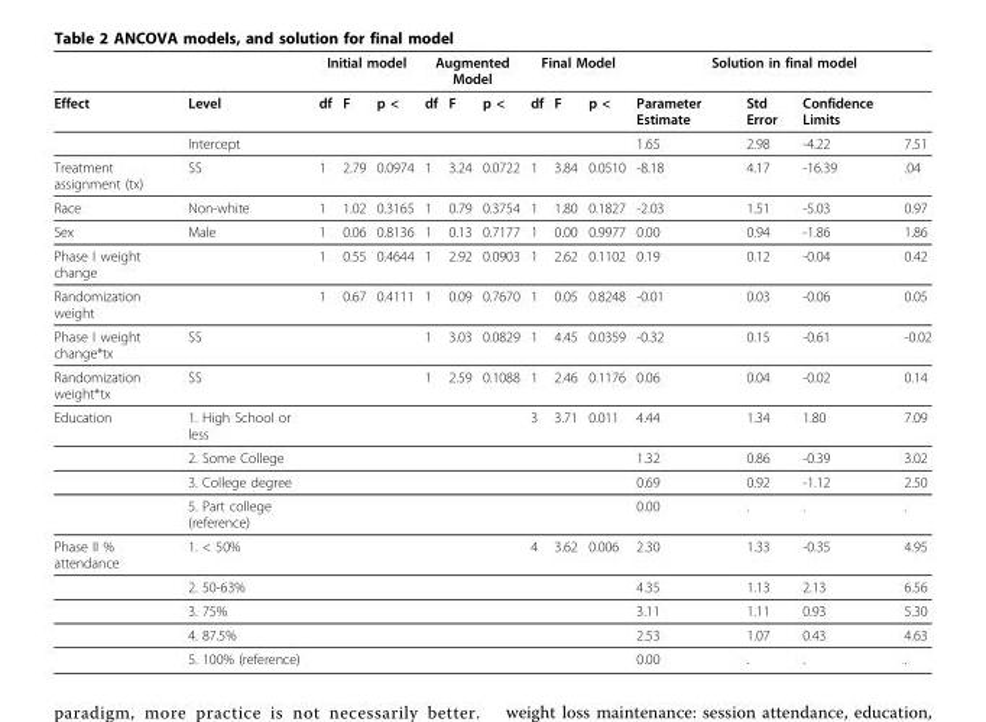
<table><thead><tr><td rowspan="2">Effect</td><td rowspan="2">Level</td><td colspan="3">Initial model</td><td colspan="3">Augmented Model</td><td colspan="3">Final Model</td><td colspan="4">Solution in final model</td></tr><tr><td>df</td><td>F</td><td>p &lt;</td><td>df</td><td>F</td><td>p &lt;</td><td>df</td><td>F</td><td>p &lt;</td><td>Parameter Estimate</td><td>Std Error</td><td>Confidence Limits</td><td></td></tr></thead><tbody><tr><td></td><td>Intercept</td><td></td><td></td><td></td><td></td><td></td><td></td><td></td><td></td><td></td><td>1.65</td><td>2.98</td><td>-4.22</td><td>7.51</td></tr><tr><td>Treatment assignment (tx)</td><td>SS</td><td>1</td><td>2.79</td><td>0.0974</td><td>1</td><td>3.24</td><td>0.0722</td><td>1</td><td>3.84</td><td>0.0510</td><td>-8.18</td><td>4.17</td><td>-16.39</td><td>.04</td></tr><tr><td>Race</td><td>Non-white</td><td>1</td><td>1.02</td><td>0.3165</td><td>1</td><td>0.79</td><td>0.3754</td><td>1</td><td>1.80</td><td>0.1827</td><td>-2.03</td><td>1.51</td><td>-5.03</td><td>0.97</td></tr><tr><td>Sex</td><td>Male</td><td>1</td><td>0.06</td><td>0.8136</td><td>1</td><td>0.13</td><td>0.7177</td><td>1</td><td>0.00</td><td>0.9977</td><td>0.00</td><td>0.94</td><td>-1.86</td><td>1.86</td></tr><tr><td>Phase I weight change</td><td></td><td>1</td><td>0.55</td><td>0.4644</td><td>1</td><td>2.92</td><td>0.0903</td><td>1</td><td>2.62</td><td>0.1102</td><td>0.19</td><td>0.12</td><td>-0.04</td><td>0.42</td></tr><tr><td>Randomization weight</td><td></td><td>1</td><td>0.67</td><td>0.4111</td><td>1</td><td>0.09</td><td>0.7670</td><td>1</td><td>0.05</td><td>0.8248</td><td>-0.01</td><td>0.03</td><td>-0.06</td><td>0.05</td></tr><tr><td>Phase I weight change*tx</td><td>SS</td><td></td><td></td><td></td><td>1</td><td>3.03</td><td>0.0829</td><td>1</td><td>4.45</td><td>0.0359</td><td>-0.32</td><td>0.15</td><td>-0.61</td><td>-0.02</td></tr><tr><td>Randomization weight*tx</td><td>SS</td><td></td><td></td><td></td><td>1</td><td>2.59</td><td>0.1088</td><td>1</td><td>2.46</td><td>0.1176</td><td>0.06</td><td>0.04</td><td>-0.02</td><td>0.14</td></tr><tr><td rowspan="4">Education</td><td>1. High School or less</td><td></td><td></td><td></td><td></td><td></td><td></td><td>3</td><td>3.71</td><td>0.011</td><td>4.44</td><td>1.34</td><td>1.80</td><td>7.09</td></tr><tr><td>2. Some College</td><td></td><td></td><td></td><td></td><td></td><td></td><td></td><td></td><td></td><td>1.32</td><td>0.86</td><td>-0.39</td><td>3.02</td></tr><tr><td>3. College degree</td><td></td><td></td><td></td><td></td><td></td><td></td><td></td><td></td><td></td><td>0.69</td><td>0.92</td><td>-1.12</td><td>2.50</td></tr><tr><td>5. Part college (reference)</td><td></td><td></td><td></td><td></td><td></td><td></td><td></td><td></td><td></td><td>0.00</td><td>.</td><td>.</td><td>.</td></tr><tr><td rowspan="5">Phase II % attendance</td><td>1. &lt; 50%</td><td></td><td></td><td></td><td></td><td></td><td></td><td>4</td><td>3.62</td><td>0.006</td><td>2.30</td><td>1.33</td><td>-0.35</td><td>4.95</td></tr><tr><td>2. 50-63%</td><td></td><td></td><td></td><td></td><td></td><td></td><td></td><td></td><td></td><td>4.35</td><td>1.13</td><td>2.13</td><td>6.56</td></tr><tr><td>3. 75%</td><td></td><td></td><td></td><td></td><td></td><td></td><td></td><td></td><td></td><td>3.11</td><td>1.11</td><td>0.93</td><td>5.30</td></tr><tr><td>4. 87.5%</td><td></td><td></td><td></td><td></td><td></td><td></td><td></td><td></td><td></td><td>2.53</td><td>1.07</td><td>0.43</td><td>4.63</td></tr><tr><td>5. 100% (reference)</td><td></td><td></td><td></td><td></td><td></td><td></td><td></td><td></td><td></td><td>0.00</td><td>.</td><td>.</td><td>.</td></tr></tbody></table>